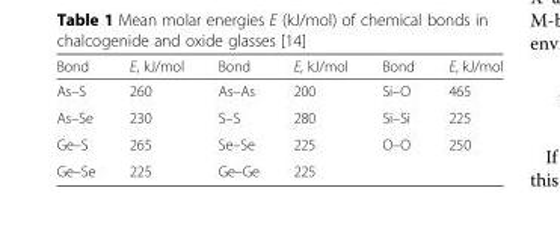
<table><thead><tr><td>Bond</td><td>Е, kJ/mol</td><td>Bond</td><td>Е, kJ/mol</td><td>Bond</td><td>Е, kJ/mol</td></tr></thead><tbody><tr><td>As–S</td><td>260</td><td>As–As</td><td>200</td><td>Si–O</td><td>465</td></tr><tr><td>As–Se</td><td>230</td><td>S–S</td><td>280</td><td>Si–Si</td><td>225</td></tr><tr><td>Ge–S</td><td>265</td><td>Se–Se</td><td>225</td><td>O–O</td><td>250</td></tr><tr><td>Ge–Se</td><td>225</td><td>Ge–Ge</td><td>225</td><td></td><td></td></tr></tbody></table>